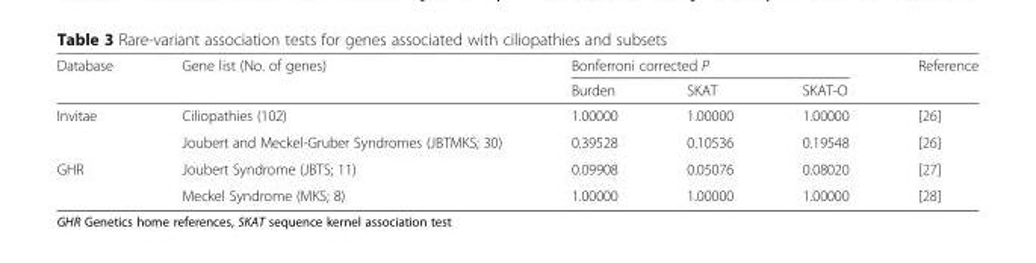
<table><thead><tr><td rowspan="2">Database</td><td rowspan="2">Gene list (No. of genes)</td><td colspan="3">Bonferroni corrected P</td><td rowspan="2">Reference</td></tr><tr><td>Burden</td><td>SKAT</td><td>SKAT-O</td></tr></thead><tbody><tr><td rowspan="2">Invitae</td><td>Ciliopathies (102)</td><td>1.00000</td><td>1.00000</td><td>1.00000</td><td>[26]</td></tr><tr><td>Joubert and Meckel-Gruber Syndromes (JBTMKS; 30)</td><td>0.39528</td><td>0.10536</td><td>0.19548</td><td>[26]</td></tr><tr><td rowspan="2">GHR</td><td>Joubert Syndrome (JBTS; 11)</td><td>0.09908</td><td>0.05076</td><td>0.08020</td><td>[27]</td></tr><tr><td>Meckel Syndrome (MKS; 8)</td><td>1.00000</td><td>1.00000</td><td>1.00000</td><td>[28]</td></tr></tbody></table>